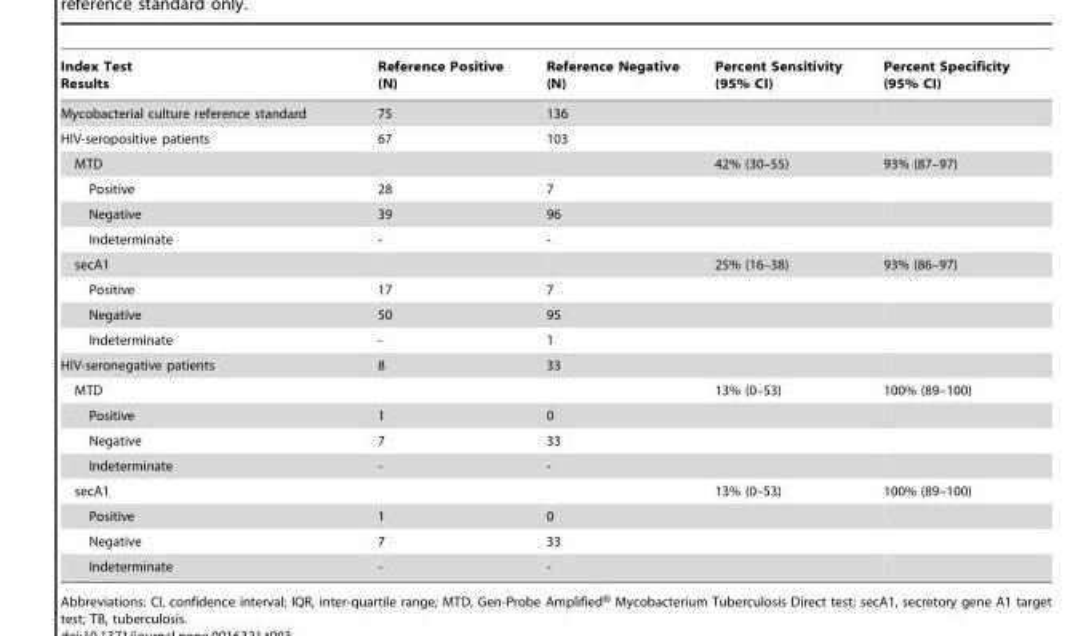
<table><thead><tr><td>Index Test Results</td><td>Reference Positive (N)</td><td>Reference Negative (N)</td><td>Percent Sensitivity (95% CI)</td><td>Percent Specificity (95% CI)</td></tr></thead><tbody><tr><td>Mycobacterial culture reference standard</td><td>75</td><td>136</td><td></td><td></td></tr><tr><td>HIV-seropositive patients</td><td>67</td><td>103</td><td></td><td></td></tr><tr><td>MTD</td><td></td><td></td><td>42% (30–55)</td><td>93% (87–97)</td></tr><tr><td>Positive</td><td>28</td><td>7</td><td></td><td></td></tr><tr><td>Negative</td><td>39</td><td>96</td><td></td><td></td></tr><tr><td>Indeterminate</td><td>-</td><td>-</td><td></td><td></td></tr><tr><td>secA1</td><td></td><td></td><td>25% (16–38)</td><td>93% (86–97)</td></tr><tr><td>Positive</td><td>17</td><td>7</td><td></td><td></td></tr><tr><td>Negative</td><td>50</td><td>95</td><td></td><td></td></tr><tr><td>Indeterminate</td><td>-</td><td>1</td><td></td><td></td></tr><tr><td>HIV-seronegative patients</td><td>8</td><td>33</td><td></td><td></td></tr><tr><td>MTD</td><td></td><td></td><td>13% (0–53)</td><td>100% (89–100)</td></tr><tr><td>Positive</td><td>1</td><td>0</td><td></td><td></td></tr><tr><td>Negative</td><td>7</td><td>33</td><td></td><td></td></tr><tr><td>Indeterminate</td><td>-</td><td>-</td><td></td><td></td></tr><tr><td>secA1</td><td></td><td></td><td>13% (0–53)</td><td>100% (89–100)</td></tr><tr><td>Positive</td><td>1</td><td>0</td><td></td><td></td></tr><tr><td>Negative</td><td>7</td><td>33</td><td></td><td></td></tr><tr><td>Indeterminate</td><td>-</td><td>-</td><td></td><td></td></tr></tbody></table>